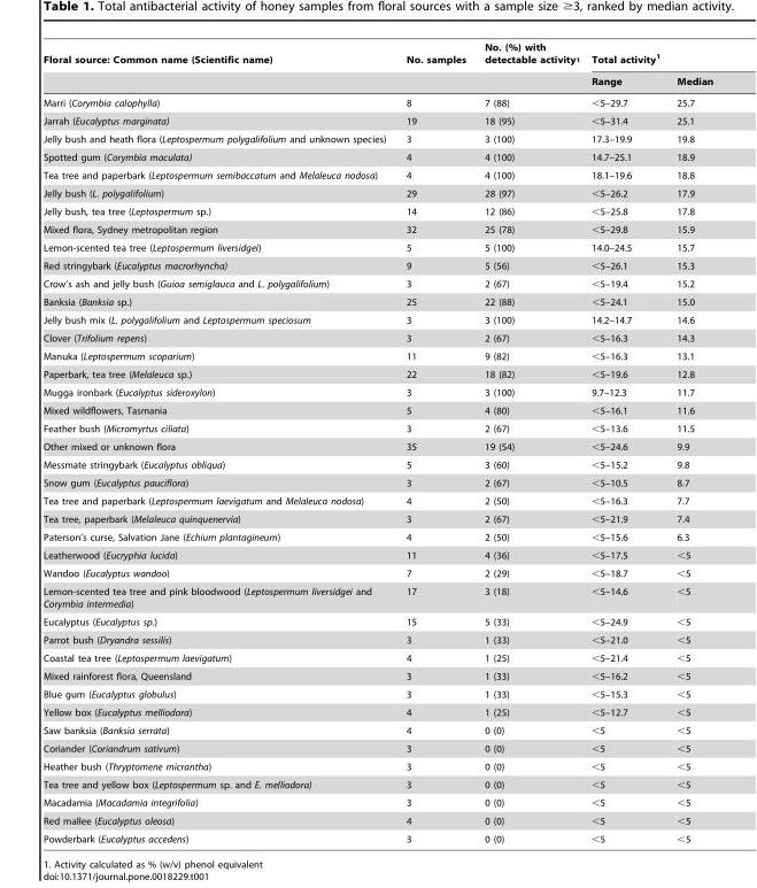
<table><thead><tr><td rowspan="2">Floral source: Common name (Scientific name)</td><td rowspan="2">No. samples</td><td rowspan="2">No. (%) with detectable activity<sup>1</sup></td><td colspan="2">Total activity<sup>1</sup></td></tr><tr><td>Range</td><td>Median</td></tr></thead><tbody><tr><td>Marri (Corymbia calophylla)</td><td>8</td><td>7 (88)</td><td>&lt;5–29.7</td><td>25.7</td></tr><tr><td>Jarrah (Eucalyptus marginata)</td><td>19</td><td>18 (95)</td><td>&lt;5–31.4</td><td>25.1</td></tr><tr><td>Jelly bush and heath flora (Leptospermum polygalifolium and unknown species)</td><td>3</td><td>3 (100)</td><td>17.3–19.9</td><td>19.8</td></tr><tr><td>Spotted gum (Corymbia maculata)</td><td>4</td><td>4 (100)</td><td>14.7–25.1</td><td>18.9</td></tr><tr><td>Tea tree and paperbark (Leptospermum semibaccatum and Melaleuca nodosa)</td><td>4</td><td>4 (100)</td><td>18.1–19.6</td><td>18.8</td></tr><tr><td>Jelly bush (L. polygalifolium)</td><td>29</td><td>28 (97)</td><td>&lt;5–26.2</td><td>17.9</td></tr><tr><td>Jelly bush, tea tree (Leptospermum sp.)</td><td>14</td><td>12 (86)</td><td>&lt;5–25.8</td><td>17.8</td></tr><tr><td>Mixed flora, Sydney metropolitan region</td><td>32</td><td>25 (78)</td><td>&lt;5–29.8</td><td>15.9</td></tr><tr><td>Lemon-scented tea tree (Leptospermum liversidgei)</td><td>5</td><td>5 (100)</td><td>14.0–24.5</td><td>15.7</td></tr><tr><td>Red stringybark (Eucalyptus macrorhyncha)</td><td>9</td><td>5 (56)</td><td>&lt;5–26.1</td><td>15.3</td></tr><tr><td>Crow’s ash and jelly bush (Guioa semiglauca and L. polygalifolium)</td><td>3</td><td>2 (67)</td><td>&lt;5–19.4</td><td>15.2</td></tr><tr><td>Banksia (Banksia sp.)</td><td>25</td><td>22 (88)</td><td>&lt;5–24.1</td><td>15.0</td></tr><tr><td>Jelly bush mix (L. polygalifolium and Leptospermum speciosum</td><td>3</td><td>3 (100)</td><td>14.2–14.7</td><td>14.6</td></tr><tr><td>Clover (Trifolium repens)</td><td>3</td><td>2 (67)</td><td>&lt;5–16.3</td><td>14.3</td></tr><tr><td>Manuka (Leptospermum scoparium)</td><td>11</td><td>9 (82)</td><td>&lt;5–16.3</td><td>13.1</td></tr><tr><td>Paperbark, tea tree (Melaleuca sp.)</td><td>22</td><td>18 (82)</td><td>&lt;5–19.6</td><td>12.8</td></tr><tr><td>Mugga ironbark (Eucalyptus sideroxylon)</td><td>3</td><td>3 (100)</td><td>9.7–12.3</td><td>11.7</td></tr><tr><td>Mixed wildflowers, Tasmania</td><td>5</td><td>4 (80)</td><td>&lt;5–16.1</td><td>11.6</td></tr><tr><td>Feather bush (Micromyrtus ciliata)</td><td>3</td><td>2 (67)</td><td>&lt;5–13.6</td><td>11.5</td></tr><tr><td>Other mixed or unknown flora</td><td>35</td><td>19 (54)</td><td>&lt;5–24.6</td><td>9.9</td></tr><tr><td>Messmate stringybark (Eucalyptus obliqua)</td><td>5</td><td>3 (60)</td><td>&lt;5–15.2</td><td>9.8</td></tr><tr><td>Snow gum (Eucalyptus pauciflora)</td><td>3</td><td>2 (67)</td><td>&lt;5–10.5</td><td>8.7</td></tr><tr><td>Tea tree and paperbark (Leptospermum laevigatum and Melaleuca nodosa)</td><td>4</td><td>2 (50)</td><td>&lt;5–16.3</td><td>7.7</td></tr><tr><td>Tea tree, paperbark (Melaleuca quinquenervia)</td><td>3</td><td>2 (67)</td><td>&lt;5–21.9</td><td>7.4</td></tr><tr><td>Paterson’s curse, Salvation Jane (Echium plantagineum)</td><td>4</td><td>2 (50)</td><td>&lt;5–15.6</td><td>6.3</td></tr><tr><td>Leatherwood (Eucryphia lucida)</td><td>11</td><td>4 (36)</td><td>&lt;5–17.5</td><td>&lt;5</td></tr><tr><td>Wandoo (Eucalyptus wandoo)</td><td>7</td><td>2 (29)</td><td>&lt;5–18.7</td><td>&lt;5</td></tr><tr><td>Lemon-scented tea tree and pink bloodwood (Leptospermum liversidgei and Corymbia intermedia)</td><td>17</td><td>3 (18)</td><td>&lt;5–14.6</td><td>&lt;5</td></tr><tr><td>Eucalyptus (Eucalyptus sp.)</td><td>15</td><td>5 (33)</td><td>&lt;5–24.9</td><td>&lt;5</td></tr><tr><td>Parrot bush (Dryandra sessilis)</td><td>3</td><td>1 (33)</td><td>&lt;5–21.0</td><td>&lt;5</td></tr><tr><td>Coastal tea tree (Leptospermum laevigatum)</td><td>4</td><td>1 (25)</td><td>&lt;5–21.4</td><td>&lt;5</td></tr><tr><td>Mixed rainforest flora, Queensland</td><td>3</td><td>1 (33)</td><td>&lt;5–16.2</td><td>&lt;5</td></tr><tr><td>Blue gum (Eucalyptus globulus)</td><td>3</td><td>1 (33)</td><td>&lt;5–15.3</td><td>&lt;5</td></tr><tr><td>Yellow box (Eucalyptus melliodora)</td><td>4</td><td>1 (25)</td><td>&lt;5–12.7</td><td>&lt;5</td></tr><tr><td>Saw banksia (Banksia serrata)</td><td>4</td><td>0 (0)</td><td>&lt;5</td><td>&lt;5</td></tr><tr><td>Coriander (Coriandrum sativum)</td><td>3</td><td>0 (0)</td><td>&lt;5</td><td>&lt;5</td></tr><tr><td>Heather bush (Thryptomene micrantha)</td><td>3</td><td>0 (0)</td><td>&lt;5</td><td>&lt;5</td></tr><tr><td>Tea tree and yellow box (Leptospermum sp. and E. melliodora)</td><td>3</td><td>0 (0)</td><td>&lt;5</td><td>&lt;5</td></tr><tr><td>Macadamia (Macadamia integrifolia)</td><td>3</td><td>0 (0)</td><td>&lt;5</td><td>&lt;5</td></tr><tr><td>Red mallee (Eucalyptus oleosa)</td><td>4</td><td>0 (0)</td><td>&lt;5</td><td>&lt;5</td></tr><tr><td>Powderbark (Eucalyptus accedens)</td><td>3</td><td>0 (0)</td><td>&lt;5</td><td>&lt;5</td></tr></tbody></table>